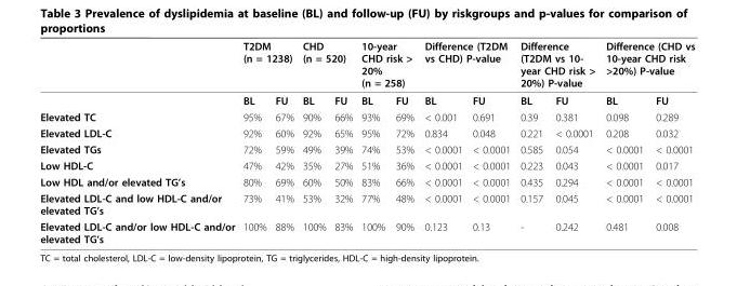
<table><thead><tr><td rowspan="2"></td><td colspan="2">T2DM (n = 1238)</td><td colspan="2">CHD (n = 520)</td><td colspan="2">10-year CHD risk &gt; 20% (n = 258)</td><td colspan="2">Difference (T2DM vs CHD) P-value</td><td colspan="2">Difference (T2DM vs 10- year CHD risk &gt; 20%) P-value</td><td colspan="2">Difference (CHD vs 10-year CHD risk &gt;20%) P-value</td></tr><tr><td>BL</td><td>FU</td><td>BL</td><td>FU</td><td>BL</td><td>FU</td><td>BL</td><td>FU</td><td>BL</td><td>FU</td><td>BL</td><td>FU</td></tr></thead><tbody><tr><td>Elevated TC</td><td>95%</td><td>67%</td><td>90%</td><td>66%</td><td>93%</td><td>69%</td><td>&lt; 0.001</td><td>0.691</td><td>0.39</td><td>0.381</td><td>0.098</td><td>0.289</td></tr><tr><td>Elevated LDL-C</td><td>92%</td><td>60%</td><td>92%</td><td>65%</td><td>95%</td><td>72%</td><td>0.834</td><td>0.048</td><td>0.221</td><td>&lt; 0.0001</td><td>0.208</td><td>0.032</td></tr><tr><td>Elevated TGs</td><td>72%</td><td>59%</td><td>49%</td><td>39%</td><td>74%</td><td>53%</td><td>&lt; 0.0001</td><td>&lt; 0.0001</td><td>0.585</td><td>0.054</td><td>&lt; 0.0001</td><td>&lt; 0.0001</td></tr><tr><td>Low HDL-C</td><td>47%</td><td>42%</td><td>35%</td><td>27%</td><td>51%</td><td>36%</td><td>&lt; 0.0001</td><td>&lt; 0.0001</td><td>0.223</td><td>0.043</td><td>&lt; 0.0001</td><td>0.017</td></tr><tr><td>Low HDL and/or elevated TG’s</td><td>80%</td><td>69%</td><td>60%</td><td>50%</td><td>83%</td><td>66%</td><td>&lt; 0.0001</td><td>&lt; 0.0001</td><td>0.435</td><td>0.294</td><td>&lt; 0.0001</td><td>&lt; 0.0001</td></tr><tr><td>Elevated LDL-C and low HDL-C and/or elevated TG’s</td><td>73%</td><td>41%</td><td>53%</td><td>32%</td><td>77%</td><td>48%</td><td>&lt; 0.0001</td><td>&lt; 0.0001</td><td>0.157</td><td>0.045</td><td>&lt; 0.0001</td><td>&lt; 0.0001</td></tr><tr><td>Elevated LDL-C and/or low HDL-C and/or elevated TG’s</td><td>100%</td><td>88%</td><td>100%</td><td>83%</td><td>100%</td><td>90%</td><td>0.123</td><td>0.13</td><td>-</td><td>0.242</td><td>0.481</td><td>0.008</td></tr></tbody></table>